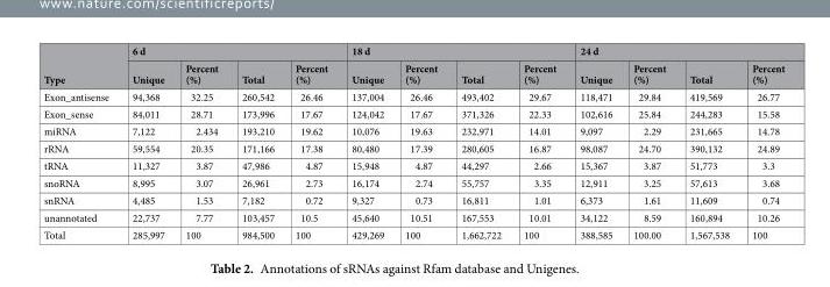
<table><thead><tr><td rowspan="2">Type</td><td colspan="4">6 d</td><td colspan="4">18 d</td><td colspan="4">24 d</td></tr><tr><td>Unique</td><td>Percent (%)</td><td>Total</td><td>Percent (%)</td><td>Unique</td><td>Percent (%)</td><td>Total</td><td>Percent (%)</td><td>Unique</td><td>Percent (%)</td><td>Total</td><td>Percent (%)</td></tr></thead><tbody><tr><td>Exon_antisense</td><td>94,368</td><td>32.25</td><td>260,542</td><td>26.46</td><td>137,004</td><td>26.46</td><td>493,402</td><td>29.67</td><td>118,471</td><td>29.84</td><td>419,569</td><td>26.77</td></tr><tr><td>Exon_sense</td><td>84,011</td><td>28.71</td><td>173,996</td><td>17.67</td><td>124,042</td><td>17.67</td><td>371,326</td><td>22.33</td><td>102,616</td><td>25.84</td><td>244,283</td><td>15.58</td></tr><tr><td>miRNA</td><td>7,122</td><td>2.434</td><td>193,210</td><td>19.62</td><td>10,076</td><td>19.63</td><td>232,971</td><td>14.01</td><td>9,097</td><td>2.29</td><td>231,665</td><td>14.78</td></tr><tr><td>rRNA</td><td>59,554</td><td>20.35</td><td>171,166</td><td>17.38</td><td>80,480</td><td>17.39</td><td>280,605</td><td>16.87</td><td>98,087</td><td>24.70</td><td>390,132</td><td>24.89</td></tr><tr><td>tRNA</td><td>11,327</td><td>3.87</td><td>47,986</td><td>4.87</td><td>15,948</td><td>4.87</td><td>44,297</td><td>2.66</td><td>15,367</td><td>3.87</td><td>51,773</td><td>3.3</td></tr><tr><td>snoRNA</td><td>8,995</td><td>3.07</td><td>26,961</td><td>2.73</td><td>16,174</td><td>2.74</td><td>55,757</td><td>3.35</td><td>12,911</td><td>3.25</td><td>57,613</td><td>3.68</td></tr><tr><td>snRNA</td><td>4,485</td><td>1.53</td><td>7,182</td><td>0.72</td><td>9,327</td><td>0.73</td><td>16,811</td><td>1.01</td><td>6,373</td><td>1.61</td><td>11,609</td><td>0.74</td></tr><tr><td>unannotated</td><td>22,737</td><td>7.77</td><td>103,457</td><td>10.5</td><td>45,640</td><td>10.51</td><td>167,553</td><td>10.01</td><td>34,122</td><td>8.59</td><td>160,894</td><td>10.26</td></tr><tr><td>Total</td><td>285,997</td><td>100</td><td>984,500</td><td>100</td><td>429,269</td><td>100</td><td>1,662,722</td><td>100</td><td>388,585</td><td>100.00</td><td>1,567,538</td><td>100</td></tr></tbody></table>